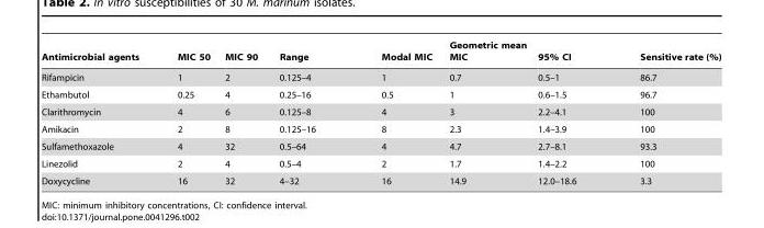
<table><thead><tr><td>Antimicrobial agents</td><td>MIC 50</td><td>MIC 90</td><td>Range</td><td>Modal MIC</td><td>Geometric mean MIC</td><td>95% CI</td><td>Sensitive rate (%)</td></tr></thead><tbody><tr><td>Rifampicin</td><td>1</td><td>2</td><td>0.125–4</td><td>1</td><td>0.7</td><td>0.5–1</td><td>86.7</td></tr><tr><td>Ethambutol</td><td>0.25</td><td>4</td><td>0.25–16</td><td>0.5</td><td>1</td><td>0.6–1.5</td><td>96.7</td></tr><tr><td>Clarithromycin</td><td>4</td><td>6</td><td>0.125–8</td><td>4</td><td>3</td><td>2.2–4.1</td><td>100</td></tr><tr><td>Amikacin</td><td>2</td><td>8</td><td>0.125–16</td><td>8</td><td>2.3</td><td>1.4–3.9</td><td>100</td></tr><tr><td>Sulfamethoxazole</td><td>4</td><td>32</td><td>0.5–64</td><td>4</td><td>4.7</td><td>2.7–8.1</td><td>93.3</td></tr><tr><td>Linezolid</td><td>2</td><td>4</td><td>0.5–4</td><td>2</td><td>1.7</td><td>1.4–2.2</td><td>100</td></tr><tr><td>Doxycycline</td><td>16</td><td>32</td><td>4–32</td><td>16</td><td>14.9</td><td>12.0–18.6</td><td>3.3</td></tr></tbody></table>